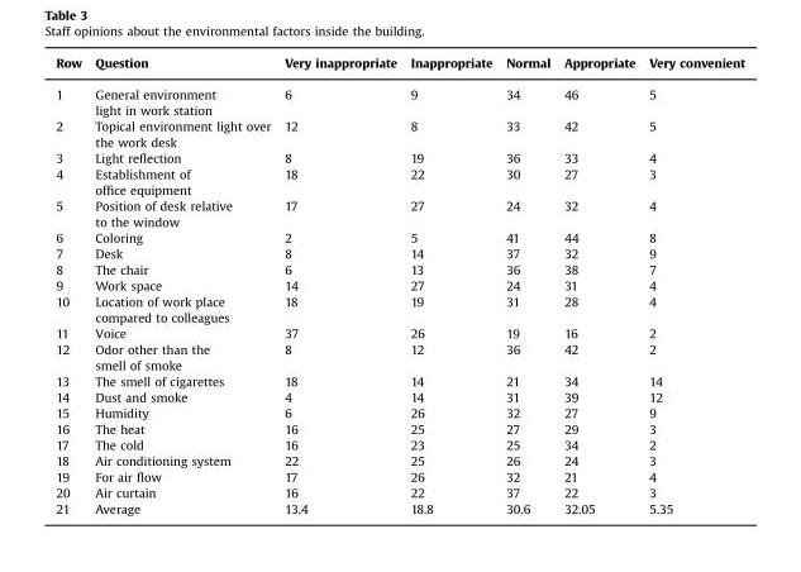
<table><thead><tr><td>Row</td><td>Question</td><td>Very inappropriate</td><td>Inappropriate</td><td>Normal</td><td>Appropriate</td><td>Very convenient</td></tr></thead><tbody><tr><td>1</td><td>General environment light in work station</td><td>6</td><td>9</td><td>34</td><td>46</td><td>5</td></tr><tr><td>2</td><td>Topical environment light over the work desk</td><td>12</td><td>8</td><td>33</td><td>42</td><td>5</td></tr><tr><td>3</td><td>Light reflection</td><td>8</td><td>19</td><td>36</td><td>33</td><td>4</td></tr><tr><td>4</td><td>Establishment of office equipment</td><td>18</td><td>22</td><td>30</td><td>27</td><td>3</td></tr><tr><td>5</td><td>Position of desk relative to the window</td><td>17</td><td>27</td><td>24</td><td>32</td><td>4</td></tr><tr><td>6</td><td>Coloring</td><td>2</td><td>5</td><td>41</td><td>44</td><td>8</td></tr><tr><td>7</td><td>Desk</td><td>8</td><td>14</td><td>37</td><td>32</td><td>9</td></tr><tr><td>8</td><td>The chair</td><td>6</td><td>13</td><td>36</td><td>38</td><td>7</td></tr><tr><td>9</td><td>Work space</td><td>14</td><td>27</td><td>24</td><td>31</td><td>4</td></tr><tr><td>10</td><td>Location of work place compared to colleagues</td><td>18</td><td>19</td><td>31</td><td>28</td><td>4</td></tr><tr><td>11</td><td>Voice</td><td>37</td><td>26</td><td>19</td><td>16</td><td>2</td></tr><tr><td>12</td><td>Odor other than the smell of smoke</td><td>8</td><td>12</td><td>36</td><td>42</td><td>2</td></tr><tr><td>13</td><td>The smell of cigarettes</td><td>18</td><td>14</td><td>21</td><td>34</td><td>14</td></tr><tr><td>14</td><td>Dust and smoke</td><td>4</td><td>14</td><td>31</td><td>39</td><td>12</td></tr><tr><td>15</td><td>Humidity</td><td>6</td><td>26</td><td>32</td><td>27</td><td>9</td></tr><tr><td>16</td><td>The heat</td><td>16</td><td>25</td><td>27</td><td>29</td><td>3</td></tr><tr><td>17</td><td>The cold</td><td>16</td><td>23</td><td>25</td><td>34</td><td>2</td></tr><tr><td>18</td><td>Air conditioning system</td><td>22</td><td>25</td><td>26</td><td>24</td><td>3</td></tr><tr><td>19</td><td>For air flow</td><td>17</td><td>26</td><td>32</td><td>21</td><td>4</td></tr><tr><td>20</td><td>Air curtain</td><td>16</td><td>22</td><td>37</td><td>22</td><td>3</td></tr><tr><td>21</td><td>Average</td><td>13.4</td><td>18.8</td><td>30.6</td><td>32.05</td><td>5.35</td></tr></tbody></table>